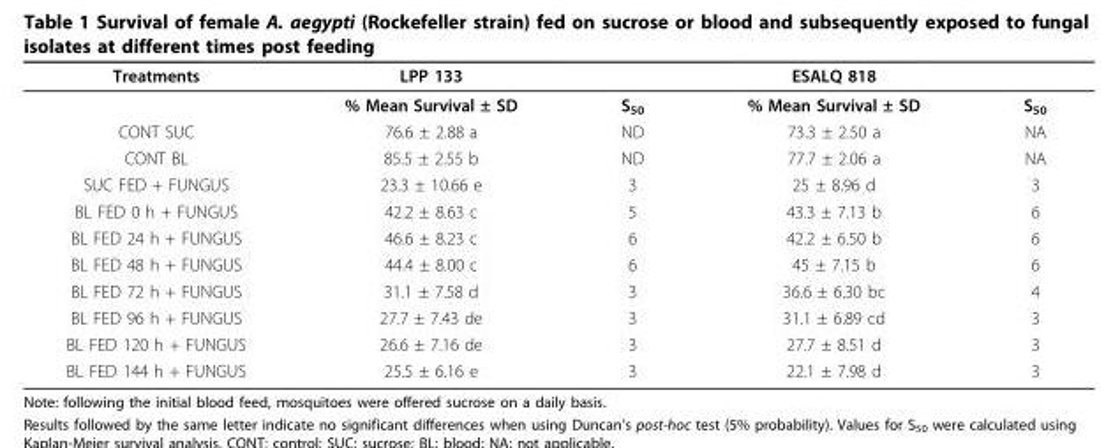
<table><thead><tr><td>Treatments</td><td>LPP 133</td><td></td><td>ESALQ 818</td><td></td></tr></thead><tbody><tr><td></td><td>% Mean Survival ± SD</td><td>S<sub>50</sub></td><td>% Mean Survival ± SD</td><td>S<sub>50</sub></td></tr><tr><td>CONT SUC</td><td>76.6 ± 2.88 a</td><td>ND</td><td>73.3 ± 2.50 a</td><td>NA</td></tr><tr><td>CONT BL</td><td>85.5 ± 2.55 b</td><td>ND</td><td>77.7 ± 2.06 a</td><td>NA</td></tr><tr><td>SUC FED + FUNGUS</td><td>23.3 ± 10.66 e</td><td>3</td><td>25 ± 8.96 d</td><td>3</td></tr><tr><td>BL FED 0 h + FUNGUS</td><td>42.2 ± 8.63 c</td><td>5</td><td>43.3 ± 7.13 b</td><td>6</td></tr><tr><td>BL FED 24 h + FUNGUS</td><td>46.6 ± 8.23 c</td><td>6</td><td>42.2 ± 6.50 b</td><td>6</td></tr><tr><td>BL FED 48 h + FUNGUS</td><td>44.4 ± 8.00 c</td><td>6</td><td>45 ± 7.15 b</td><td>6</td></tr><tr><td>BL FED 72 h + FUNGUS</td><td>31.1 ± 7.58 d</td><td>3</td><td>36.6 ± 6.30 bc</td><td>4</td></tr><tr><td>BL FED 96 h + FUNGUS</td><td>27.7 ± 7.43 de</td><td>3</td><td>31.1 ± 6.89 cd</td><td>3</td></tr><tr><td>BL FED 120 h + FUNGUS</td><td>26.6 ± 7.16 de</td><td>3</td><td>27.7 ± 8.51 d</td><td>3</td></tr><tr><td>BL FED 144 h + FUNGUS</td><td>25.5 ± 6.16 e</td><td>3</td><td>22.1 ± 7.98 d</td><td>3</td></tr></tbody></table>